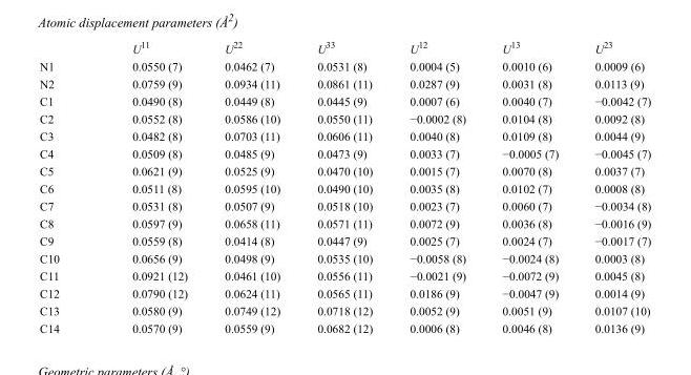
<table><thead><tr><td></td><td>U<sup>11</sup></td><td>U<sup>22</sup></td><td>U<sup>33</sup></td><td>U<sup>12</sup></td><td>U<sup>13</sup></td><td>U<sup>23</sup></td></tr></thead><tbody><tr><td>N1</td><td>0.0550 (7)</td><td>0.0462 (7)</td><td>0.0531 (8)</td><td>0.0004 (5)</td><td>0.0010 (6)</td><td>0.0009 (6)</td></tr><tr><td>N2</td><td>0.0759 (9)</td><td>0.0934 (11)</td><td>0.0861 (11)</td><td>0.0287 (9)</td><td>0.0031 (8)</td><td>0.0113 (9)</td></tr><tr><td>C1</td><td>0.0490 (8)</td><td>0.0449 (8)</td><td>0.0445 (9)</td><td>0.0007 (6)</td><td>0.0040 (7)</td><td>−0.0042 (7)</td></tr><tr><td>C2</td><td>0.0552 (8)</td><td>0.0586 (10)</td><td>0.0550 (11)</td><td>−0.0002 (8)</td><td>0.0104 (8)</td><td>0.0092 (8)</td></tr><tr><td>C3</td><td>0.0482 (8)</td><td>0.0703 (11)</td><td>0.0606 (11)</td><td>0.0040 (8)</td><td>0.0109 (8)</td><td>0.0044 (9)</td></tr><tr><td>C4</td><td>0.0509 (8)</td><td>0.0485 (9)</td><td>0.0473 (9)</td><td>0.0033 (7)</td><td>−0.0005 (7)</td><td>−0.0045 (7)</td></tr><tr><td>C5</td><td>0.0621 (9)</td><td>0.0525 (9)</td><td>0.0470 (10)</td><td>0.0015 (7)</td><td>0.0070 (8)</td><td>0.0037 (7)</td></tr><tr><td>C6</td><td>0.0511 (8)</td><td>0.0595 (10)</td><td>0.0490 (10)</td><td>0.0035 (8)</td><td>0.0102 (7)</td><td>0.0008 (8)</td></tr><tr><td>C7</td><td>0.0531 (8)</td><td>0.0507 (9)</td><td>0.0518 (10)</td><td>0.0023 (7)</td><td>0.0060 (7)</td><td>−0.0034 (8)</td></tr><tr><td>C8</td><td>0.0597 (9)</td><td>0.0658 (11)</td><td>0.0571 (11)</td><td>0.0072 (9)</td><td>0.0036 (8)</td><td>−0.0016 (9)</td></tr><tr><td>C9</td><td>0.0559 (8)</td><td>0.0414 (8)</td><td>0.0447 (9)</td><td>0.0025 (7)</td><td>0.0024 (7)</td><td>−0.0017 (7)</td></tr><tr><td>C10</td><td>0.0656 (9)</td><td>0.0498 (9)</td><td>0.0535 (10)</td><td>−0.0058 (8)</td><td>−0.0024 (8)</td><td>0.0003 (8)</td></tr><tr><td>C11</td><td>0.0921 (12)</td><td>0.0461 (10)</td><td>0.0556 (11)</td><td>−0.0021 (9)</td><td>−0.0072 (9)</td><td>0.0045 (8)</td></tr><tr><td>C12</td><td>0.0790 (12)</td><td>0.0624 (11)</td><td>0.0565 (11)</td><td>0.0186 (9)</td><td>−0.0047 (9)</td><td>0.0014 (9)</td></tr><tr><td>C13</td><td>0.0580 (9)</td><td>0.0749 (12)</td><td>0.0718 (12)</td><td>0.0052 (9)</td><td>0.0051 (9)</td><td>0.0107 (10)</td></tr><tr><td>C14</td><td>0.0570 (9)</td><td>0.0559 (9)</td><td>0.0682 (12)</td><td>0.0006 (8)</td><td>0.0046 (8)</td><td>0.0136 (9)</td></tr></tbody></table>